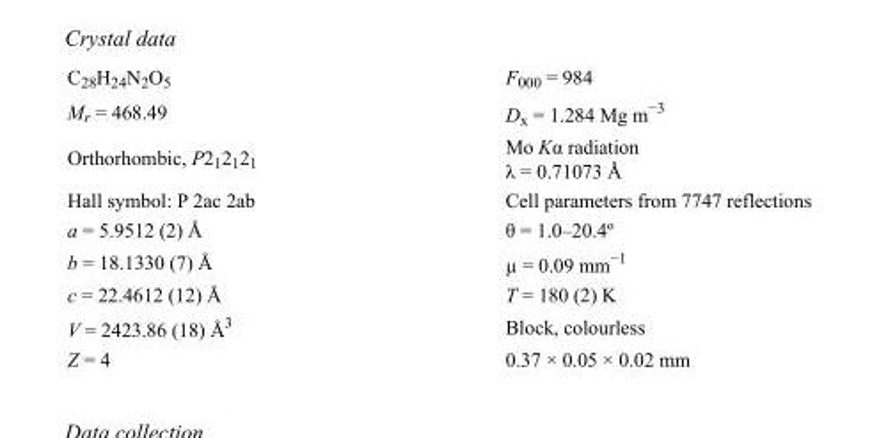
<table><tbody><tr><td>C<sub>28</sub>H<sub>24</sub>N<sub>2</sub>O<sub>5</sub></td><td>F<sub>000</sub> = 984</td></tr><tr><td>M<sub>r</sub> = 468.49</td><td>D<sub>x</sub> = 1.284 Mg m<sup>−3</sup></td></tr><tr><td>Orthorhombic, P2<sub>1</sub>2<sub>1</sub>2<sub>1</sub></td><td>Mo Kα radiation λ = 0.71073 Å</td></tr><tr><td>Hall symbol: P 2ac 2ab</td><td>Cell parameters from 7747 reflections</td></tr><tr><td>a = 5.9512 (2) Å</td><td>θ = 1.0–20.4º</td></tr><tr><td>b = 18.1330 (7) Å</td><td>µ = 0.09 mm<sup>−1</sup></td></tr><tr><td>c = 22.4612 (12) Å</td><td>T = 180 (2) K</td></tr><tr><td>V = 2423.86 (18) Å<sup>3</sup></td><td>Block, colourless</td></tr><tr><td>Z = 4</td><td>0.37 × 0.05 × 0.02 mm</td></tr></tbody></table>